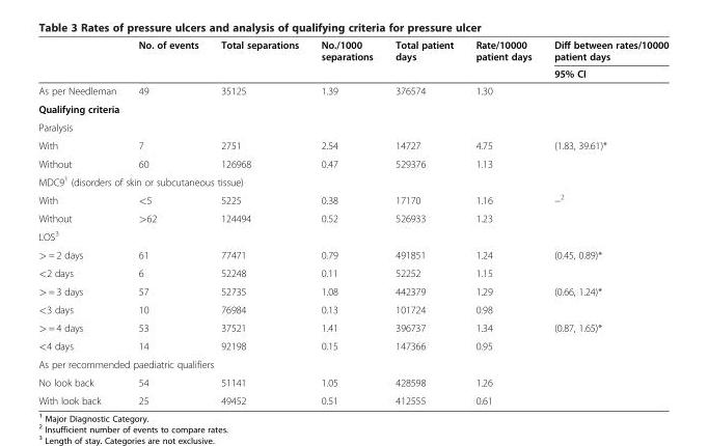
<table><thead><tr><td rowspan="2"></td><td rowspan="2">No. of events</td><td rowspan="2">Total separations</td><td rowspan="2">No./1000 separations</td><td rowspan="2">Total patient days</td><td rowspan="2">Rate/10000 patient days</td><td rowspan="2">Diff between rates/10000 patient days 95% CI</td></tr><tr></tr></thead><tbody><tr><td>As per Needleman</td><td>49</td><td>35125</td><td>1.39</td><td>376574</td><td>1.30</td><td></td></tr><tr><td colspan="7">Qualifying criteria</td></tr><tr><td colspan="7">Paralysis</td></tr><tr><td>With</td><td>7</td><td>2751</td><td>2.54</td><td>14727</td><td>4.75</td><td rowspan="2">(1.83, 39.61)*</td></tr><tr><td>Without</td><td>60</td><td>126968</td><td>0.47</td><td>529376</td><td>1.13</td></tr><tr><td colspan="7">MDC9<sup>1</sup> (disorders of skin or subcutaneous tissue)</td></tr><tr><td>With</td><td>&lt;5</td><td>5225</td><td>0.38</td><td>17170</td><td>1.16</td><td>−<sup>2</sup></td></tr><tr><td>Without</td><td>&gt;62</td><td>124494</td><td>0.52</td><td>526933</td><td>1.23</td><td></td></tr><tr><td colspan="7">LOS<sup>3</sup></td></tr><tr><td>&gt; = 2 days</td><td>61</td><td>77471</td><td>0.79</td><td>491851</td><td>1.24</td><td rowspan="2">(0.45, 0.89)*</td></tr><tr><td>&lt;2 days</td><td>6</td><td>52248</td><td>0.11</td><td>52252</td><td>1.15</td></tr><tr><td>&gt; = 3 days</td><td>57</td><td>52735</td><td>1.08</td><td>442379</td><td>1.29</td><td rowspan="2">(0.66, 1.24)*</td></tr><tr><td>&lt;3 days</td><td>10</td><td>76984</td><td>0.13</td><td>101724</td><td>0.98</td></tr><tr><td>&gt; = 4 days</td><td>53</td><td>37521</td><td>1.41</td><td>396737</td><td>1.34</td><td rowspan="2">(0.87, 1.65)*</td></tr><tr><td>&lt;4 days</td><td>14</td><td>92198</td><td>0.15</td><td>147366</td><td>0.95</td></tr><tr><td colspan="7">As per recommended paediatric qualifiers</td></tr><tr><td>No look back</td><td>54</td><td>51141</td><td>1.05</td><td>428598</td><td>1.26</td><td></td></tr><tr><td>With look back</td><td>25</td><td>49452</td><td>0.51</td><td>412555</td><td>0.61</td><td></td></tr></tbody></table>